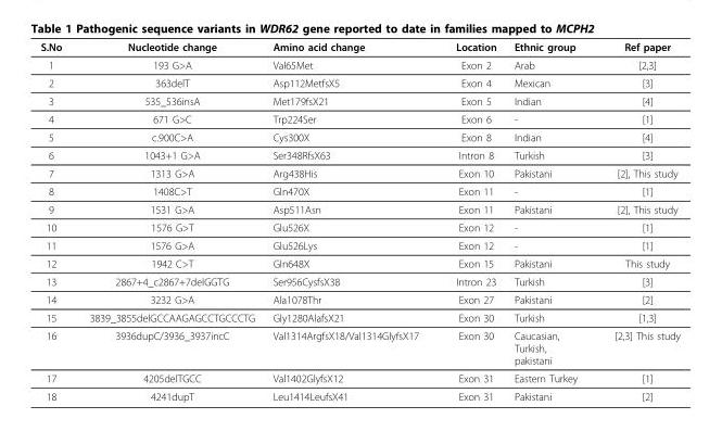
<table><thead><tr><td>S.No</td><td>Nucleotide change</td><td>Amino acid change</td><td>Location</td><td>Ethnic group</td><td>Ref paper</td></tr></thead><tbody><tr><td>1</td><td>193 G&gt;A</td><td>Val65Met</td><td>Exon 2</td><td>Arab</td><td>[2,3]</td></tr><tr><td>2</td><td>363delT</td><td>Asp112MetfsX5</td><td>Exon 4</td><td>Mexican</td><td>[3]</td></tr><tr><td>3</td><td>535_536insA</td><td>Met179fsX21</td><td>Exon 5</td><td>Indian</td><td>[4]</td></tr><tr><td>4</td><td>671 G&gt;C</td><td>Trp224Ser</td><td>Exon 6</td><td>-</td><td>[1]</td></tr><tr><td>5</td><td>c.900C&gt;A</td><td>Cys300X</td><td>Exon 8</td><td>Indian</td><td>[4]</td></tr><tr><td>6</td><td>1043+1 G&gt;A</td><td>Ser348RfsX63</td><td>Intron 8</td><td>Turkish</td><td>[3]</td></tr><tr><td>7</td><td>1313 G&gt;A</td><td>Arg438His</td><td>Exon 10</td><td>Pakistani</td><td>[2], This study</td></tr><tr><td>8</td><td>1408C&gt;T</td><td>Gln470X</td><td>Exon 11</td><td>-</td><td>[1]</td></tr><tr><td>9</td><td>1531 G&gt;A</td><td>Asp511Asn</td><td>Exon 11</td><td>Pakistani</td><td>[2], This study</td></tr><tr><td>10</td><td>1576 G&gt;T</td><td>Glu526X</td><td>Exon 12</td><td>-</td><td>[1]</td></tr><tr><td>11</td><td>1576 G&gt;A</td><td>Glu526Lys</td><td>Exon 12</td><td>-</td><td>[1]</td></tr><tr><td>12</td><td>1942 C&gt;T</td><td>Gln648X</td><td>Exon 15</td><td>Pakistani</td><td>This study</td></tr><tr><td>13</td><td>2867+4_c2867+7delGGTG</td><td>Ser956CysfsX38</td><td>Intron 23</td><td>Turkish</td><td>[3]</td></tr><tr><td>14</td><td>3232 G&gt;A</td><td>Ala1078Thr</td><td>Exon 27</td><td>Pakistani</td><td>[2]</td></tr><tr><td>15</td><td>3839_3855delGCCAAGAGCCTGCCCTG</td><td>Gly1280AlafsX21</td><td>Exon 30</td><td>Turkish</td><td>[1,3]</td></tr><tr><td>16</td><td>3936dupC/3936_3937incC</td><td>Val1314ArgfsX18/Val1314GlyfsX17</td><td>Exon 30</td><td>Caucasian, Turkish, pakistani</td><td>[2,3] This study</td></tr><tr><td>17</td><td>4205delTGCC</td><td>Val1402GlyfsX12</td><td>Exon 31</td><td>Eastern Turkey</td><td>[1]</td></tr><tr><td>18</td><td>4241dupT</td><td>Leu1414LeufsX41</td><td>Exon 31</td><td>Pakistani</td><td>[2]</td></tr></tbody></table>